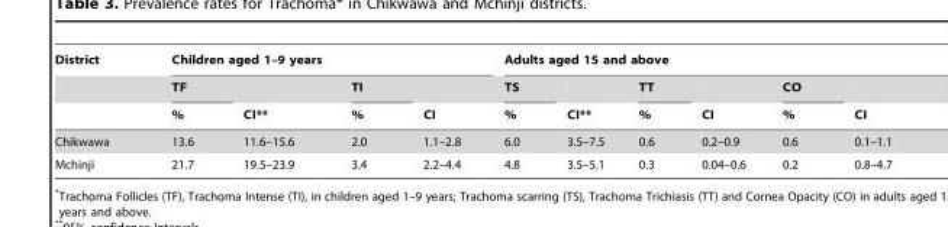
<table><thead><tr><td rowspan="3">District</td><td colspan="4">Children aged 1–9 years</td><td colspan="6">Adults aged 15 and above</td></tr><tr><td rowspan="2">TF %</td><td rowspan="2">CI**</td><td rowspan="2">TI %</td><td rowspan="2">CI</td><td rowspan="2">TS %</td><td rowspan="2">CI**</td><td rowspan="2">TT %</td><td rowspan="2">CI</td><td rowspan="2">CO %</td><td rowspan="2">CI</td></tr><tr></tr></thead><tbody><tr><td>Chikwawa</td><td>13.6</td><td>11.6–15.6</td><td>2.0</td><td>1.1–2.8</td><td>6.0</td><td>3.5–7.5</td><td>0.6</td><td>0.2–0.9</td><td>0.6</td><td>0.1–1.1</td></tr><tr><td>Mchinji</td><td>21.7</td><td>19.5–23.9</td><td>3.4</td><td>2.2–4.4</td><td>4.8</td><td>3.5–5.1</td><td>0.3</td><td>0.04–0.6</td><td>0.2</td><td>0.8–4.7</td></tr></tbody></table>